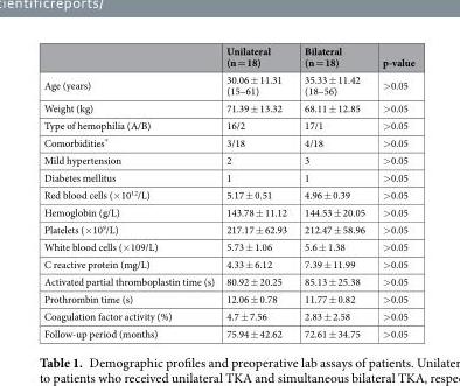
<table><thead><tr><td></td><td>Unilateral (n = 18)</td><td>Bilateral (n = 18)</td><td>p-value</td></tr></thead><tbody><tr><td>Age (years)</td><td>30.06 ± 11.31 (15–61)</td><td>35.33 ± 11.42 (18–56)</td><td>&gt;0.05</td></tr><tr><td>Weight (kg)</td><td>71.39 ± 13.32</td><td>68.11 ± 12.85</td><td>&gt;0.05</td></tr><tr><td>Type of hemophilia (A/B)</td><td>16/2</td><td>17/1</td><td>&gt;0.05</td></tr><tr><td>Comorbidities*</td><td>3/18</td><td>4/18</td><td>&gt;0.05</td></tr><tr><td>Mild hypertension</td><td>2</td><td>3</td><td>&gt;0.05</td></tr><tr><td>Diabetes mellitus</td><td>1</td><td>1</td><td>&gt;0.05</td></tr><tr><td>Red blood cells (×10<sup>12</sup>/L)</td><td>5.17 ± 0.51</td><td>4.96 ± 0.39</td><td>&gt;0.05</td></tr><tr><td>Hemoglobin (g/L)</td><td>143.78 ± 11.12</td><td>144.53 ± 20.05</td><td>&gt;0.05</td></tr><tr><td>Platelets (×10<sup>9</sup>/L)</td><td>217.17 ± 62.93</td><td>212.47 ± 58.96</td><td>&gt;0.05</td></tr><tr><td>White blood cells (×109/L)</td><td>5.73 ± 1.06</td><td>5.6 ± 1.38</td><td>&gt;0.05</td></tr><tr><td>C reactive protein (mg/L)</td><td>4.33 ± 6.12</td><td>7.39 ± 11.99</td><td>&gt;0.05</td></tr><tr><td>Activated partial thromboplastin time (s)</td><td>80.92 ± 20.25</td><td>85.13 ± 25.38</td><td>&gt;0.05</td></tr><tr><td>Prothrombin time (s)</td><td>12.06 ± 0.78</td><td>11.77 ± 0.82</td><td>&gt;0.05</td></tr><tr><td>Coagulation factor activity (%)</td><td>4.7 ± 7.56</td><td>2.83 ± 2.58</td><td>&gt;0.05</td></tr><tr><td>Follow-up period (months)</td><td>75.94 ± 42.62</td><td>72.61 ± 34.75</td><td>&gt;0.05</td></tr></tbody></table>